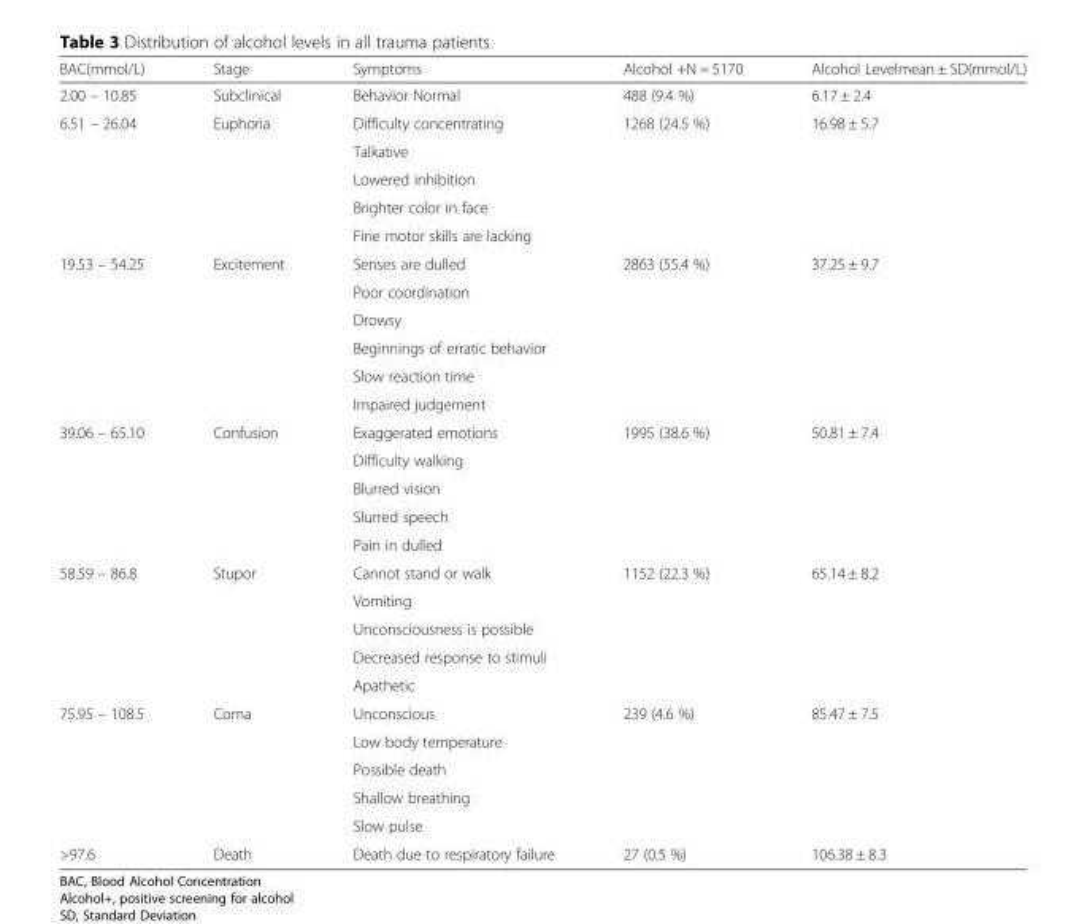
<table><thead><tr><td>BAC(mmol/L)</td><td>Stage</td><td>Symptoms</td><td>Alcohol +N = 5170</td><td>Alcohol Levelmean ± SD(mmol/L)</td></tr></thead><tbody><tr><td>2.00 – 10.85</td><td>Subclinical</td><td>Behavior Normal</td><td>488 (9.4 %)</td><td>6.17 ± 2.4</td></tr><tr><td rowspan="5">6.51 – 26.04</td><td rowspan="5">Euphoria</td><td>Difficulty concentrating</td><td rowspan="5">1268 (24.5 %)</td><td rowspan="5">16.98 ± 5.7</td></tr><tr><td>Talkative</td></tr><tr><td>Lowered inhibition</td></tr><tr><td>Brighter color in face</td></tr><tr><td>Fine motor skills are lacking</td></tr><tr><td rowspan="6">19.53 – 54.25</td><td rowspan="6">Excitement</td><td>Senses are dulled</td><td rowspan="6">2863 (55.4 %)</td><td rowspan="6">37.25 ± 9.7</td></tr><tr><td>Poor coordination</td></tr><tr><td>Drowsy</td></tr><tr><td>Beginnings of erratic behavior</td></tr><tr><td>Slow reaction time</td></tr><tr><td>Impaired judgement</td></tr><tr><td rowspan="5">39.06 – 65.10</td><td rowspan="5">Confusion</td><td>Exaggerated emotions</td><td rowspan="5">1995 (38.6 %)</td><td rowspan="5">50.81 ± 7.4</td></tr><tr><td>Difficulty walking</td></tr><tr><td>Blurred vision</td></tr><tr><td>Slurred speech</td></tr><tr><td>Pain in dulled</td></tr><tr><td rowspan="5">58.59 – 86.8</td><td rowspan="5">Stupor</td><td>Cannot stand or walk</td><td rowspan="5">1152 (22.3 %)</td><td rowspan="5">65.14 ± 8.2</td></tr><tr><td>Vomiting</td></tr><tr><td>Unconsciousness is possible</td></tr><tr><td>Decreased response to stimuli</td></tr><tr><td>Apathetic</td></tr><tr><td rowspan="5">75.95 – 108.5</td><td rowspan="5">Coma</td><td>Unconscious</td><td rowspan="5">239 (4.6 %)</td><td rowspan="5">85.47 ± 7.5</td></tr><tr><td>Low body temperature</td></tr><tr><td>Possible death</td></tr><tr><td>Shallow breathing</td></tr><tr><td>Slow pulse</td></tr><tr><td>&gt;97.6</td><td>Death</td><td>Death due to respiratory failure</td><td>27 (0.5 %)</td><td>106.38 ± 8.3</td></tr></tbody></table>